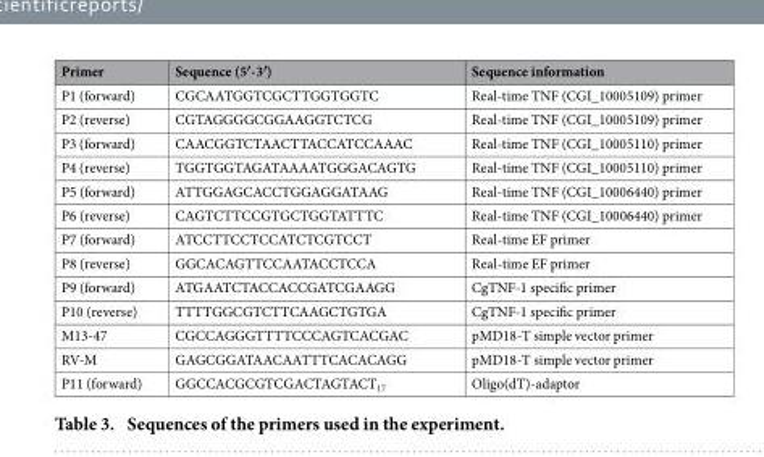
<table><thead><tr><td>Primer</td><td>Sequence (5′-3′)</td><td>Sequence information</td></tr></thead><tbody><tr><td>P1 (forward)</td><td>CGCAATGGTCGCTTGGTGGTC</td><td>Real-time TNF (CGI_10005109) primer</td></tr><tr><td>P2 (reverse)</td><td>CGTAGGGGCGGAAGGTCTCG</td><td>Real-time TNF (CGI_10005109) primer</td></tr><tr><td>P3 (forward)</td><td>CAACGGTCTAACTTACCATCCAAAC</td><td>Real-time TNF (CGI_10005110) primer</td></tr><tr><td>P4 (reverse)</td><td>TGGTGGTAGATAAAATGGGACAGTG</td><td>Real-time TNF (CGI_10005110) primer</td></tr><tr><td>P5 (forward)</td><td>ATTGGAGCACCTGGAGGATAAG</td><td>Real-time TNF (CGI_10006440) primer</td></tr><tr><td>P6 (reverse)</td><td>CAGTCTTCCGTGCTGGTATTTC</td><td>Real-time TNF (CGI_10006440) primer</td></tr><tr><td>P7 (forward)</td><td>ATCCTTCCTCCATCTCGTCCT</td><td>Real-time EF primer</td></tr><tr><td>P8 (reverse)</td><td>GGCACAGTTCCAATACCTCCA</td><td>Real-time EF primer</td></tr><tr><td>P9 (forward)</td><td>ATGAATCTACCACCGATCGAAGG</td><td>CgTNF-1 specific primer</td></tr><tr><td>P10 (reverse)</td><td>TTTTGGCGTCTTCAAGCTGTGA</td><td>CgTNF-1 specific primer</td></tr><tr><td>M13-47</td><td>CGCCAGGGTTTTCCCAGTCACGAC</td><td>pMD18-T simple vector primer</td></tr><tr><td>RV-M</td><td>GAGCGGATAACAATTTCACACAGG</td><td>pMD18-T simple vector primer</td></tr><tr><td>P11 (forward)</td><td>GGCCACGCGTCGACTAGTACT<sub>17</sub></td><td>Oligo(dT)-adaptor</td></tr></tbody></table>